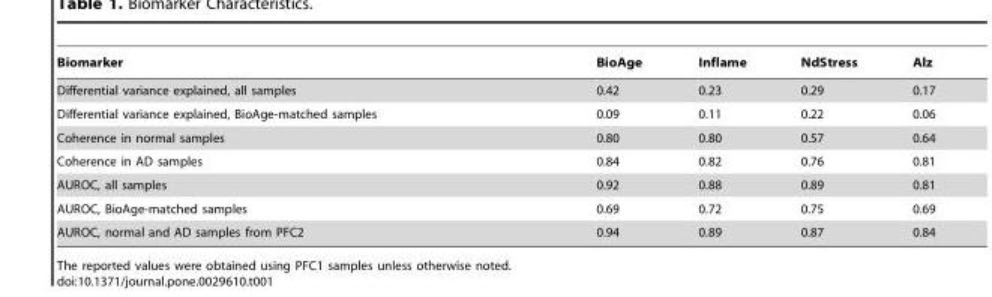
<table><thead><tr><td>Biomarker</td><td>BioAge</td><td>Inflame</td><td>NdStress</td><td>Alz</td></tr></thead><tbody><tr><td>Differential variance explained, all samples</td><td>0.42</td><td>0.23</td><td>0.29</td><td>0.17</td></tr><tr><td>Differential variance explained, BioAge-matched samples</td><td>0.09</td><td>0.11</td><td>0.22</td><td>0.06</td></tr><tr><td>Coherence in normal samples</td><td>0.80</td><td>0.80</td><td>0.57</td><td>0.64</td></tr><tr><td>Coherence in AD samples</td><td>0.84</td><td>0.82</td><td>0.76</td><td>0.81</td></tr><tr><td>AUROC, all samples</td><td>0.92</td><td>0.88</td><td>0.89</td><td>0.81</td></tr><tr><td>AUROC, BioAge-matched samples</td><td>0.69</td><td>0.72</td><td>0.75</td><td>0.69</td></tr><tr><td>AUROC, normal and AD samples from PFC2</td><td>0.94</td><td>0.89</td><td>0.87</td><td>0.84</td></tr></tbody></table>